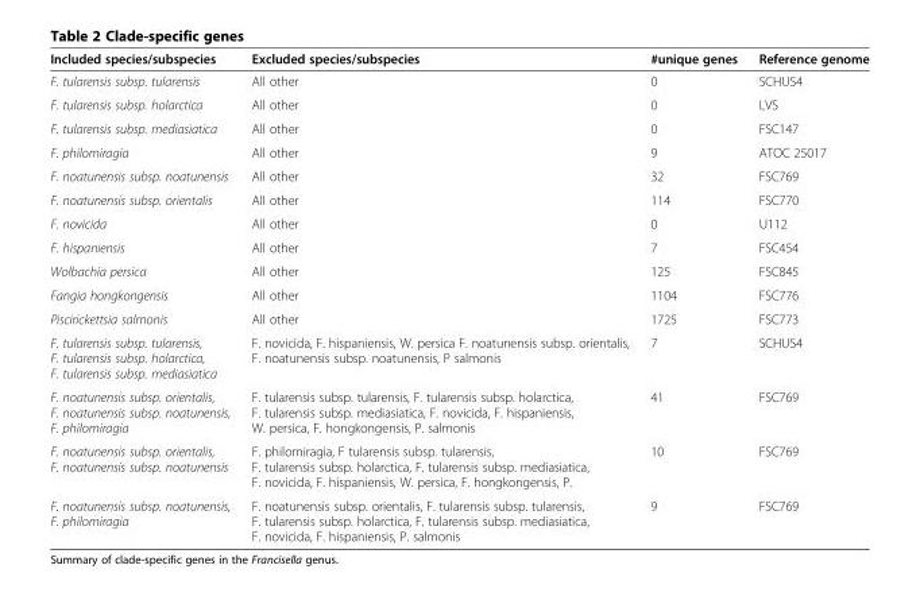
<table><thead><tr><td>Included species/subspecies</td><td>Excluded species/subspecies</td><td>#unique genes</td><td>Reference genome</td></tr></thead><tbody><tr><td>F. tularensis subsp. tularensis</td><td>All other</td><td>0</td><td>SCHUS4</td></tr><tr><td>F. tularensis subsp. holarctica</td><td>All other</td><td>0</td><td>LVS</td></tr><tr><td>F. tularensis subsp. mediasiatica</td><td>All other</td><td>0</td><td>FSC147</td></tr><tr><td>F. philomiragia</td><td>All other</td><td>9</td><td>ATOC 25017</td></tr><tr><td>F. noatunensis subsp. noatunensis</td><td>All other</td><td>32</td><td>FSC769</td></tr><tr><td>F. noatunensis subsp. orientalis</td><td>All other</td><td>114</td><td>FSC770</td></tr><tr><td>F. novicida</td><td>All other</td><td>0</td><td>U112</td></tr><tr><td>F. hispaniensis</td><td>All other</td><td>7</td><td>FSC454</td></tr><tr><td>Wolbachia persica</td><td>All other</td><td>125</td><td>FSC845</td></tr><tr><td>Fangia hongkongensis</td><td>All other</td><td>1104</td><td>FSC776</td></tr><tr><td>Piscirickettsia salmonis</td><td>All other</td><td>1725</td><td>FSC773</td></tr><tr><td>F. tularensis subsp. tularensis, F. tularensis subsp. holarctica, F. tularensis subsp. mediasiatica</td><td>F. novicida, F. hispaniensis, W. persica F. noatunensis subsp. orientalis, F. noatunensis subsp. noatunensis, P salmonis</td><td>7</td><td>SCHUS4</td></tr><tr><td>F. noatunensis subsp. orientalis, F. noatunensis subsp. noatunensis, F. philomiragia</td><td>F. tularensis subsp. tularensis, F. tularensis subsp. holarctica, F. tularensis subsp. mediasiatica, F. novicida, F. hispaniensis, W. persica, F. hongkongensis, P. salmonis</td><td>41</td><td>FSC769</td></tr><tr><td>F. noatunensis subsp. orientalis, F. noatunensis subsp. noatunensis</td><td>F. philomiragia, F tularensis subsp. tularensis, F. tularensis subsp. holarctica, F. tularensis subsp. mediasiatica, F. novicida, F. hispaniensis, W. persica, F. hongkongensis, P.</td><td>10</td><td>FSC769</td></tr><tr><td>F. noatunensis subsp. noatunensis, F. philomiragia</td><td>F. noatunensis subsp. orientalis, F. tularensis subsp. tularensis, F. tularensis subsp. holarctica, F. tularensis subsp. mediasiatica, F. novicida, F. hispaniensis, P. salmonis</td><td>9</td><td>FSC769</td></tr></tbody></table>